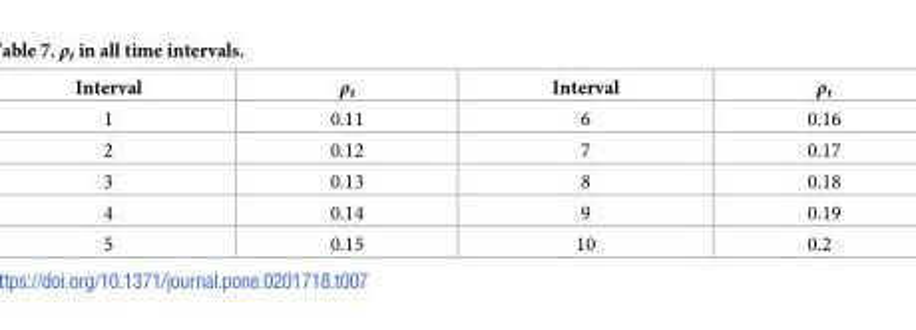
<table><thead><tr><td>Interval</td><td>ρ<sub>t</sub></td><td>Interval</td><td>ρ<sub>t</sub></td></tr></thead><tbody><tr><td>1</td><td>0.11</td><td>6</td><td>0.16</td></tr><tr><td>2</td><td>0.12</td><td>7</td><td>0.17</td></tr><tr><td>3</td><td>0.13</td><td>8</td><td>0.18</td></tr><tr><td>4</td><td>0.14</td><td>9</td><td>0.19</td></tr><tr><td>5</td><td>0.15</td><td>10</td><td>0.2</td></tr></tbody></table>